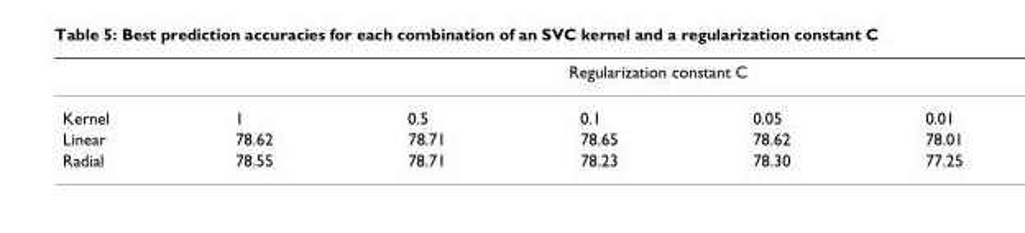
<table><thead><tr><td rowspan="2">Kernel</td><td colspan="5">Regularization constant C</td></tr><tr><td>1</td><td>0.5</td><td>0.1</td><td>0.05</td><td>0.01</td></tr></thead><tbody><tr><td>Linear</td><td>78.62</td><td>78.71</td><td>78.65</td><td>78.62</td><td>78.01</td></tr><tr><td>Radial</td><td>78.55</td><td>78.71</td><td>78.23</td><td>78.30</td><td>77.25</td></tr></tbody></table>